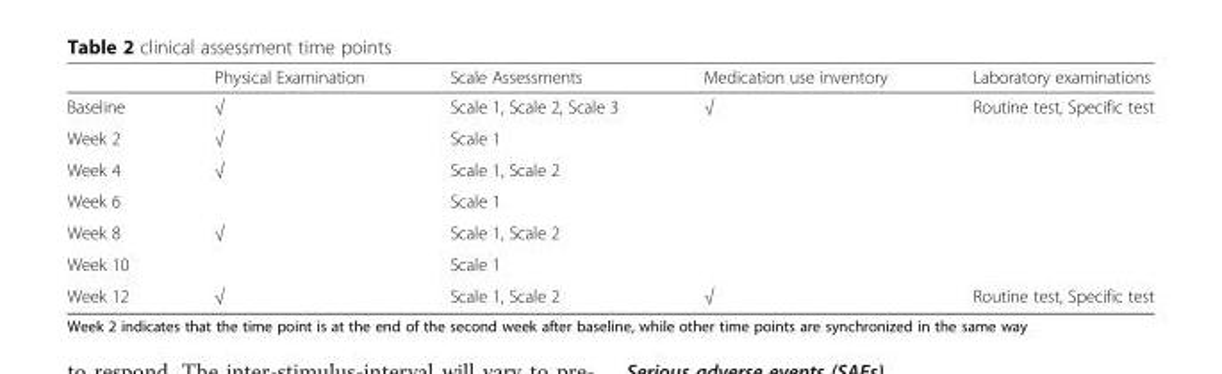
<table><thead><tr><td></td><td>Physical Examination</td><td>Scale Assessments</td><td>Medication use inventory</td><td>Laboratory examinations</td></tr></thead><tbody><tr><td>Baseline</td><td>√</td><td>Scale 1, Scale 2, Scale 3</td><td>√</td><td>Routine test, Specific test</td></tr><tr><td>Week 2</td><td>√</td><td>Scale 1</td><td></td><td></td></tr><tr><td>Week 4</td><td>√</td><td>Scale 1, Scale 2</td><td></td><td></td></tr><tr><td>Week 6</td><td></td><td>Scale 1</td><td></td><td></td></tr><tr><td>Week 8</td><td>√</td><td>Scale 1, Scale 2</td><td></td><td></td></tr><tr><td>Week 10</td><td></td><td>Scale 1</td><td></td><td></td></tr><tr><td>Week 12</td><td>√</td><td>Scale 1, Scale 2</td><td>√</td><td>Routine test, Specific test</td></tr></tbody></table>